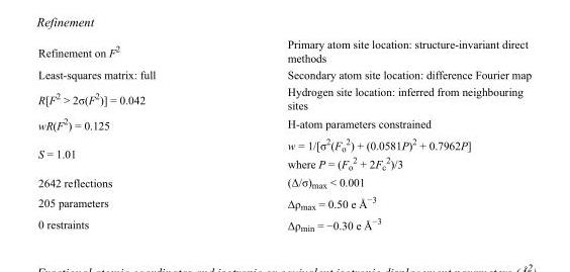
<table><tbody><tr><td>Refinement on F<sup>2</sup></td><td>Primary atom site location: structure-invariant direct methods</td></tr><tr><td>Least-squares matrix: full</td><td>Secondary atom site location: difference Fourier map</td></tr><tr><td>R[F<sup>2</sup> &gt; 2σ(F<sup>2</sup>)] = 0.042</td><td>Hydrogen site location: inferred from neighbouring sites</td></tr><tr><td>wR(F<sup>2</sup>) = 0.125</td><td>H-atom parameters constrained</td></tr><tr><td>S = 1.01</td><td>w = 1/[σ<sup>2</sup>(F<sub>o</sub> <sup>2</sup>) + (0.0581P)<sup>2</sup> + 0.7962P] where P = (F<sub>o</sub> <sup>2</sup> + 2F<sub>c</sub> <sup>2</sup>)/3</td></tr><tr><td>2642 reflections</td><td>(Δ/σ)<sub>max</sub> &lt; 0.001</td></tr><tr><td>205 parameters</td><td>Δρ<sub>max</sub> = 0.50 e Å<sup>−3</sup></td></tr><tr><td>0 restraints</td><td>Δρ<sub>min</sub> = −0.30 e Å<sup>−3</sup></td></tr></tbody></table>